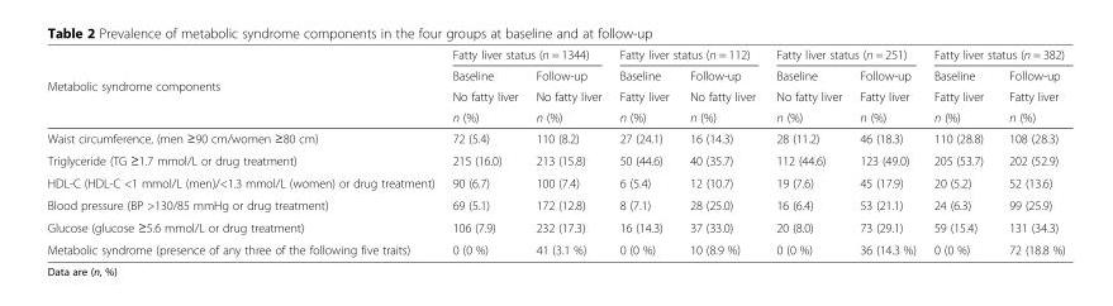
<table><thead><tr><td rowspan="4">Metabolic syndrome components</td><td colspan="2">Fatty liver status (n = 1344)</td><td colspan="2">Fatty liver status (n = 112)</td><td colspan="2">Fatty liver status (n = 251)</td><td colspan="2">Fatty liver status (n = 382)</td></tr><tr><td rowspan="3">Baseline No fatty liver n (%)</td><td rowspan="3">Follow-up No fatty liver n (%)</td><td rowspan="3">Baseline Fatty liver n (%)</td><td rowspan="3">Follow-up No fatty liver n (%)</td><td rowspan="3">Baseline No fatty liver n (%)</td><td rowspan="3">Follow-up Fatty liver n (%)</td><td rowspan="3">Baseline Fatty liver n (%)</td><td rowspan="3">Follow-up Fatty liver n (%)</td></tr><tr></tr><tr></tr></thead><tbody><tr><td>Waist circumference, (men ≥90 cm/women ≥80 cm)</td><td>72 (5.4)</td><td>110 (8.2)</td><td>27 (24.1)</td><td>16 (14.3)</td><td>28 (11.2)</td><td>46 (18.3)</td><td>110 (28.8)</td><td>108 (28.3)</td></tr><tr><td>Triglyceride (TG ≥1.7 mmol/L or drug treatment)</td><td>215 (16.0)</td><td>213 (15.8)</td><td>50 (44.6)</td><td>40 (35.7)</td><td>112 (44.6)</td><td>123 (49.0)</td><td>205 (53.7)</td><td>202 (52.9)</td></tr><tr><td>HDL-C (HDL-C &lt;1 mmol/L (men)/&lt;1.3 mmol/L (women) or drug treatment)</td><td>90 (6.7)</td><td>100 (7.4)</td><td>6 (5.4)</td><td>12 (10.7)</td><td>19 (7.6)</td><td>45 (17.9)</td><td>20 (5.2)</td><td>52 (13.6)</td></tr><tr><td>Blood pressure (BP &gt;130/85 mmHg or drug treatment)</td><td>69 (5.1)</td><td>172 (12.8)</td><td>8 (7.1)</td><td>28 (25.0)</td><td>16 (6.4)</td><td>53 (21.1)</td><td>24 (6.3)</td><td>99 (25.9)</td></tr><tr><td>Glucose (glucose ≥5.6 mmol/L or drug treatment)</td><td>106 (7.9)</td><td>232 (17.3)</td><td>16 (14.3)</td><td>37 (33.0)</td><td>20 (8.0)</td><td>73 (29.1)</td><td>59 (15.4)</td><td>131 (34.3)</td></tr><tr><td>Metabolic syndrome (presence of any three of the following five traits)</td><td>0 (0 %)</td><td>41 (3.1 %)</td><td>0 (0 %)</td><td>10 (8.9 %)</td><td>0 (0 %)</td><td>36 (14.3 %)</td><td>0 (0 %)</td><td>72 (18.8 %)</td></tr></tbody></table>